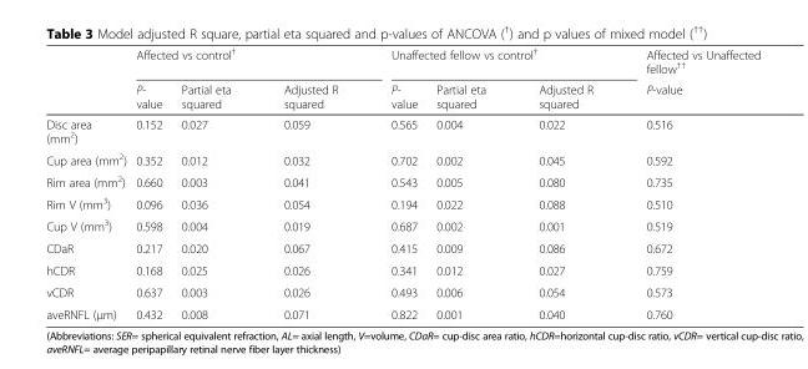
<table><thead><tr><td rowspan="2"></td><td colspan="3">Affected vs control<sup>†</sup></td><td colspan="3">Unaffected fellow vs control<sup>†</sup></td><td rowspan="2">Affected vs Unaffected fellow<sup>††</sup> P-value</td></tr><tr><td>P- value</td><td>Partial eta squared</td><td>Adjusted R squared</td><td>P- value</td><td>Partial eta squared</td><td>Adjusted R squared</td></tr></thead><tbody><tr><td>Disc area (mm<sup>2</sup>)</td><td>0.152</td><td>0.027</td><td>0.059</td><td>0.565</td><td>0.004</td><td>0.022</td><td>0.516</td></tr><tr><td>Cup area (mm<sup>2</sup>)</td><td>0.352</td><td>0.012</td><td>0.032</td><td>0.702</td><td>0.002</td><td>0.045</td><td>0.592</td></tr><tr><td>Rim area (mm<sup>2</sup>)</td><td>0.660</td><td>0.003</td><td>0.041</td><td>0.543</td><td>0.005</td><td>0.080</td><td>0.735</td></tr><tr><td>Rim V (mm<sup>3</sup>)</td><td>0.096</td><td>0.036</td><td>0.054</td><td>0.194</td><td>0.022</td><td>0.088</td><td>0.510</td></tr><tr><td>Cup V (mm<sup>3</sup>)</td><td>0.598</td><td>0.004</td><td>0.019</td><td>0.687</td><td>0.002</td><td>0.001</td><td>0.519</td></tr><tr><td>CDaR</td><td>0.217</td><td>0.020</td><td>0.067</td><td>0.415</td><td>0.009</td><td>0.086</td><td>0.672</td></tr><tr><td>hCDR</td><td>0.168</td><td>0.025</td><td>0.026</td><td>0.341</td><td>0.012</td><td>0.027</td><td>0.759</td></tr><tr><td>vCDR</td><td>0.637</td><td>0.003</td><td>0.026</td><td>0.493</td><td>0.006</td><td>0.054</td><td>0.573</td></tr><tr><td>aveRNFL (μm)</td><td>0.432</td><td>0.008</td><td>0.071</td><td>0.822</td><td>0.001</td><td>0.040</td><td>0.760</td></tr></tbody></table>